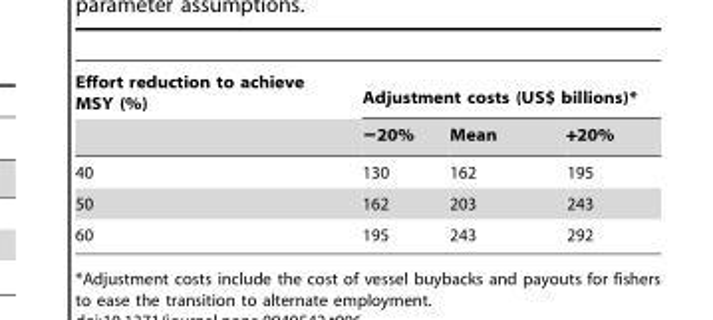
<table><thead><tr><td rowspan="2">Effort reduction to achieve MSY (%)</td><td colspan="3">Adjustment costs (US$ billions)*</td></tr><tr><td>−20%</td><td>Mean</td><td>+20%</td></tr></thead><tbody><tr><td>40</td><td>130</td><td>162</td><td>195</td></tr><tr><td>50</td><td>162</td><td>203</td><td>243</td></tr><tr><td>60</td><td>195</td><td>243</td><td>292</td></tr></tbody></table>